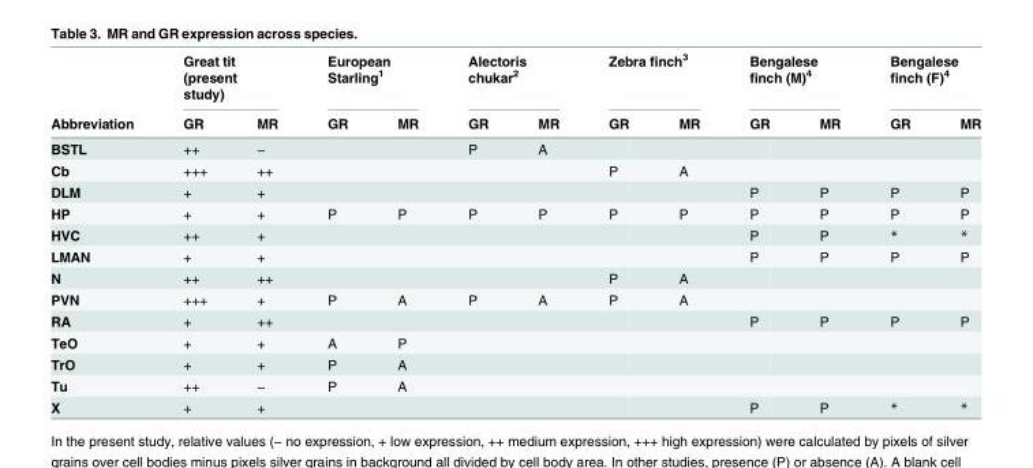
<table><thead><tr><td rowspan="2">Abbreviation</td><td colspan="2">Great tit (present study)</td><td colspan="2">European Starling<sup>1</sup></td><td colspan="2">Alectoris chukar<sup>2</sup></td><td colspan="2">Zebra finch<sup>3</sup></td><td colspan="2">Bengalese finch (M)<sup>4</sup></td><td colspan="2">Bengalese finch (F)<sup>4</sup></td></tr><tr><td>GR</td><td>MR</td><td>GR</td><td>MR</td><td>GR</td><td>MR</td><td>GR</td><td>MR</td><td>GR</td><td>MR</td><td>GR</td><td>MR</td></tr></thead><tbody><tr><td>BSTL</td><td>++</td><td>−</td><td></td><td></td><td>P</td><td>A</td><td></td><td></td><td></td><td></td><td></td><td></td></tr><tr><td>Cb</td><td>+++</td><td>++</td><td></td><td></td><td></td><td></td><td>P</td><td>A</td><td></td><td></td><td></td><td></td></tr><tr><td>DLM</td><td>+</td><td>+</td><td></td><td></td><td></td><td></td><td></td><td></td><td>P</td><td>P</td><td>P</td><td>P</td></tr><tr><td>HP</td><td>+</td><td>+</td><td>P</td><td>P</td><td>P</td><td>P</td><td>P</td><td>P</td><td>P</td><td>P</td><td>P</td><td>P</td></tr><tr><td>HVC</td><td>++</td><td>+</td><td></td><td></td><td></td><td></td><td></td><td></td><td>P</td><td>P</td><td>*</td><td>*</td></tr><tr><td>LMAN</td><td>+</td><td>+</td><td></td><td></td><td></td><td></td><td></td><td></td><td>P</td><td>P</td><td>P</td><td>P</td></tr><tr><td>N</td><td>++</td><td>++</td><td></td><td></td><td></td><td></td><td>P</td><td>A</td><td></td><td></td><td></td><td></td></tr><tr><td>PVN</td><td>+++</td><td>+</td><td>P</td><td>A</td><td>P</td><td>A</td><td>P</td><td>A</td><td></td><td></td><td></td><td></td></tr><tr><td>RA</td><td>+</td><td>++</td><td></td><td></td><td></td><td></td><td></td><td></td><td>P</td><td>P</td><td>P</td><td>P</td></tr><tr><td>TeO</td><td>+</td><td>+</td><td>A</td><td>P</td><td></td><td></td><td></td><td></td><td></td><td></td><td></td><td></td></tr><tr><td>TrO</td><td>+</td><td>+</td><td>P</td><td>A</td><td></td><td></td><td></td><td></td><td></td><td></td><td></td><td></td></tr><tr><td>Tu</td><td>++</td><td>−</td><td>P</td><td>A</td><td></td><td></td><td></td><td></td><td></td><td></td><td></td><td></td></tr><tr><td>X</td><td>+</td><td>+</td><td></td><td></td><td></td><td></td><td></td><td></td><td>P</td><td>P</td><td>*</td><td>*</td></tr></tbody></table>